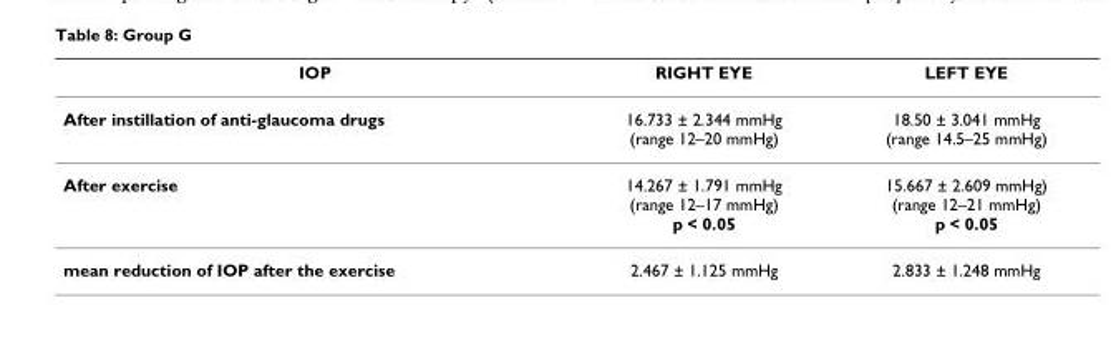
<table><thead><tr><td>IOP</td><td>RIGHT EYE</td><td>LEFT EYE</td></tr></thead><tbody><tr><td>After instillation of anti-glaucoma drugs</td><td>16.733 ± 2.344 mmHg (range 12–20 mmHg)</td><td>18.50 ± 3.041 mmHg (range 14.5–25 mmHg)</td></tr><tr><td>After exercise</td><td>14.267 ± 1.791 mmHg (range 12–17 mmHg) p &lt; 0.05</td><td>15.667 ± 2.609 mmHg) (range 12–21 mmHg) p &lt; 0.05</td></tr><tr><td>mean reduction of IOP after the exercise</td><td>2.467 ± 1.125 mmHg</td><td>2.833 ± 1.248 mmHg</td></tr></tbody></table>